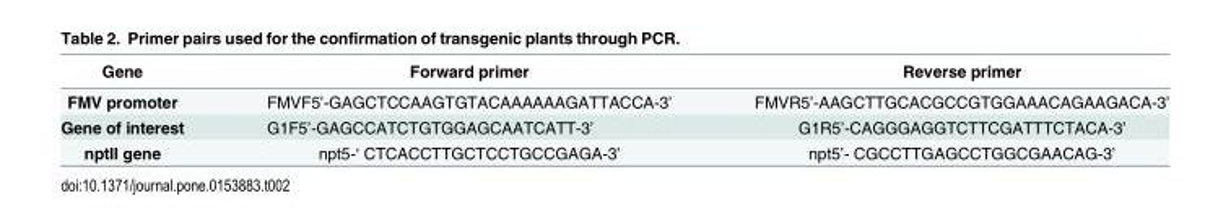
<table><thead><tr><td>Gene</td><td>Forward primer</td><td>Reverse primer</td></tr></thead><tbody><tr><td>FMV promoter</td><td>FMVF5’-GAGCTCCAAGTGTACAAAAAAGATTACCA-3’</td><td>FMVR5’-AAGCTTGCACGCCGTGGAAACAGAAGACA-3’</td></tr><tr><td>Gene of interest</td><td>G1F5’-GAGCCATCTGTGGAGCAATCATT-3’</td><td>G1R5’-CAGGGAGGTCTTCGATTTCTACA-3’</td></tr><tr><td>nptII gene</td><td>npt5-‘ CTCACCTTGCTCCTGCCGAGA-3’</td><td>npt5’- CGCCTTGAGCCTGGCGAACAG-3’</td></tr></tbody></table>